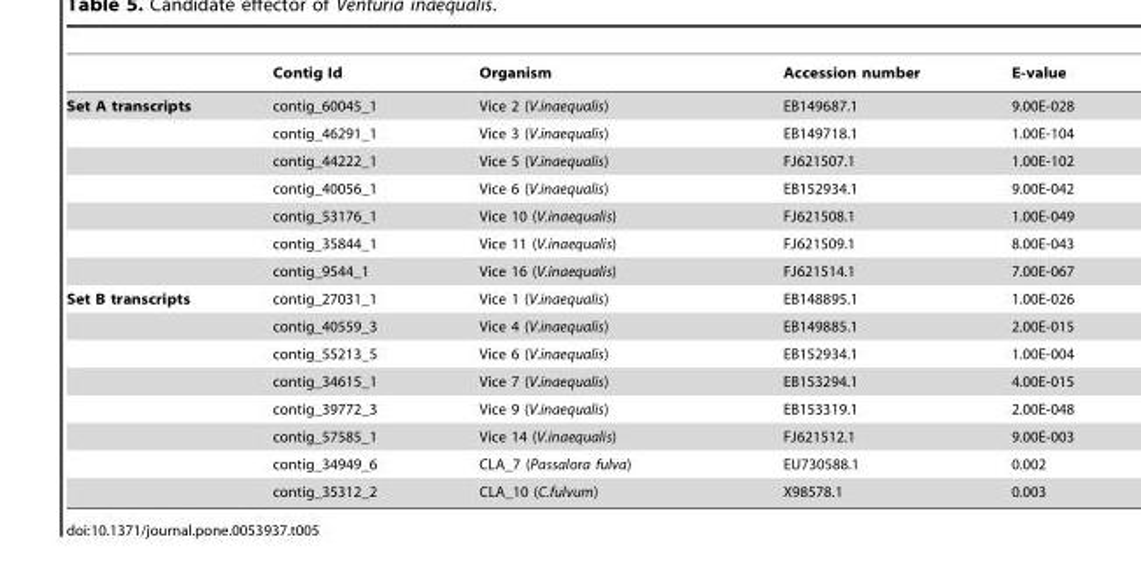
<table><thead><tr><td></td><td>Contig Id</td><td>Organism</td><td>Accession number</td><td>E-value</td></tr></thead><tbody><tr><td rowspan="7">Set A transcripts</td><td>contig_60045_1</td><td>Vice 2 (V.inaequalis)</td><td>EB149687.1</td><td>9.00E-028</td></tr><tr><td>contig_46291_1</td><td>Vice 3 (V.inaequalis)</td><td>EB149718.1</td><td>1.00E-104</td></tr><tr><td>contig_44222_1</td><td>Vice 5 (V.inaequalis)</td><td>FJ621507.1</td><td>1.00E-102</td></tr><tr><td>contig_40056_1</td><td>Vice 6 (V.inaequalis)</td><td>EB152934.1</td><td>9.00E-042</td></tr><tr><td>contig_53176_1</td><td>Vice 10 (V.inaequalis)</td><td>FJ621508.1</td><td>1.00E-049</td></tr><tr><td>contig_35844_1</td><td>Vice 11 (V.inaequalis)</td><td>FJ621509.1</td><td>8.00E-043</td></tr><tr><td>contig_9544_1</td><td>Vice 16 (V.inaequalis)</td><td>FJ621514.1</td><td>7.00E-067</td></tr><tr><td rowspan="8">Set B transcripts</td><td>contig_27031_1</td><td>Vice 1 (V.inaequalis)</td><td>EB148895.1</td><td>1.00E-026</td></tr><tr><td>contig_40559_3</td><td>Vice 4 (V.inaequalis)</td><td>EB149885.1</td><td>2.00E-015</td></tr><tr><td>contig_55213_5</td><td>Vice 6 (V.inaequalis)</td><td>EB152934.1</td><td>1.00E-004</td></tr><tr><td>contig_34615_1</td><td>Vice 7 (V.inaequalis)</td><td>EB153294.1</td><td>4.00E-015</td></tr><tr><td>contig_39772_3</td><td>Vice 9 (V.inaequalis)</td><td>EB153319.1</td><td>2.00E-048</td></tr><tr><td>contig_57585_1</td><td>Vice 14 (V.inaequalis)</td><td>FJ621512.1</td><td>9.00E-003</td></tr><tr><td>contig_34949_6</td><td>CLA_7 (Passalora fulva)</td><td>EU730588.1</td><td>0.002</td></tr><tr><td>contig_35312_2</td><td>CLA_10 (C.fulvum)</td><td>X98578.1</td><td>0.003</td></tr></tbody></table>